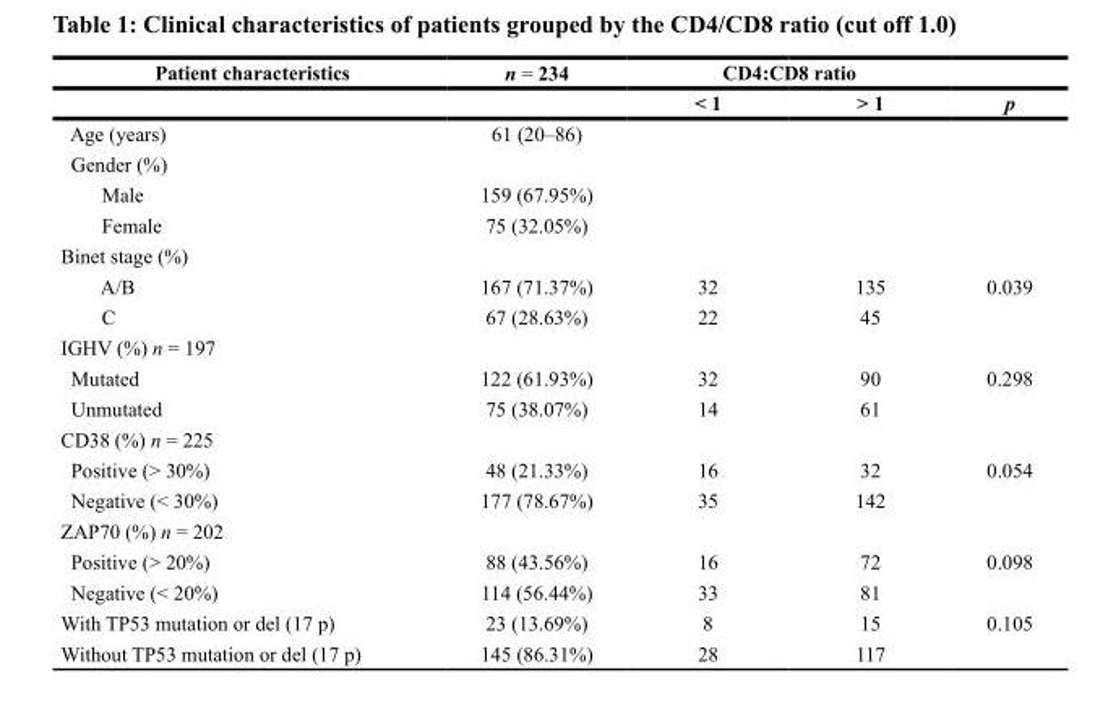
<table><thead><tr><td rowspan="2">Patient characteristics</td><td rowspan="2">n = 234</td><td colspan="2">cD4:cD8 ratio</td><td rowspan="2">p</td></tr><tr><td>&lt; 1</td><td>&gt; 1</td></tr></thead><tbody><tr><td>Age (years)</td><td>61 (20–86)</td><td></td><td></td><td></td></tr><tr><td colspan="5">Gender (%)</td></tr><tr><td>Male</td><td>159 (67.95%)</td><td></td><td></td><td></td></tr><tr><td>Female</td><td>75 (32.05%)</td><td></td><td></td><td></td></tr><tr><td colspan="5">Binet stage (%)</td></tr><tr><td>A/B</td><td>167 (71.37%)</td><td>32</td><td>135</td><td>0.039</td></tr><tr><td>C</td><td>67 (28.63%)</td><td>22</td><td>45</td><td></td></tr><tr><td colspan="5">IGHV (%) n = 197</td></tr><tr><td>Mutated</td><td>122 (61.93%)</td><td>32</td><td>90</td><td>0.298</td></tr><tr><td>Unmutated</td><td>75 (38.07%)</td><td>14</td><td>61</td><td></td></tr><tr><td colspan="5">CD38 (%) n = 225</td></tr><tr><td>Positive (&gt; 30%)</td><td>48 (21.33%)</td><td>16</td><td>32</td><td>0.054</td></tr><tr><td>Negative (&lt; 30%)</td><td>177 (78.67%)</td><td>35</td><td>142</td><td></td></tr><tr><td colspan="5">ZAP70 (%) n = 202</td></tr><tr><td>Positive (&gt; 20%)</td><td>88 (43.56%)</td><td>16</td><td>72</td><td>0.098</td></tr><tr><td>Negative (&lt; 20%)</td><td>114 (56.44%)</td><td>33</td><td>81</td><td></td></tr><tr><td>With TP53 mutation or del (17 p)</td><td>23 (13.69%)</td><td>8</td><td>15</td><td>0.105</td></tr><tr><td>Without TP53 mutation or del (17 p)</td><td>145 (86.31%)</td><td>28</td><td>117</td><td></td></tr></tbody></table>